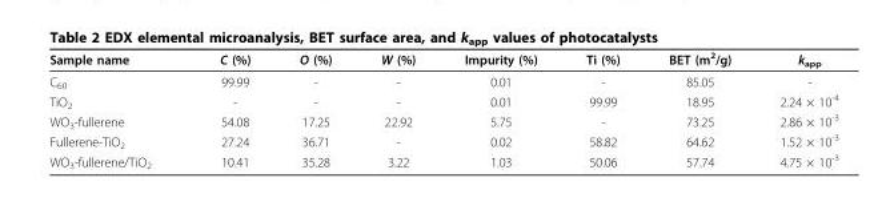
<table><thead><tr><td>Sample name</td><td>C (%)</td><td>O (%)</td><td>W (%)</td><td>Impurity (%)</td><td>Ti (%)</td><td>BET (m<sup>2</sup>/g)</td><td>k<sub>app</sub></td></tr></thead><tbody><tr><td>C<sub>60</sub></td><td>99.99</td><td>-</td><td>-</td><td>0.01</td><td>-</td><td>85.05</td><td>-</td></tr><tr><td>TiO<sub>2</sub></td><td>-</td><td>-</td><td>-</td><td>0.01</td><td>99.99</td><td>18.95</td><td>2.24 × 10<sup>-4</sup></td></tr><tr><td>WO<sub>3</sub>-fullerene</td><td>54.08</td><td>17.25</td><td>22.92</td><td>5.75</td><td>-</td><td>73.25</td><td>2.86 × 10<sup>-3</sup></td></tr><tr><td>Fullerene-TiO<sub>2</sub></td><td>27.24</td><td>36.71</td><td>-</td><td>0.02</td><td>58.82</td><td>64.62</td><td>1.52 × 10<sup>-3</sup></td></tr><tr><td>WO<sub>3</sub>-fullerene/TiO<sub>2</sub></td><td>10.41</td><td>35.28</td><td>3.22</td><td>1.03</td><td>50.06</td><td>57.74</td><td>4.75 × 10<sup>-3</sup></td></tr></tbody></table>